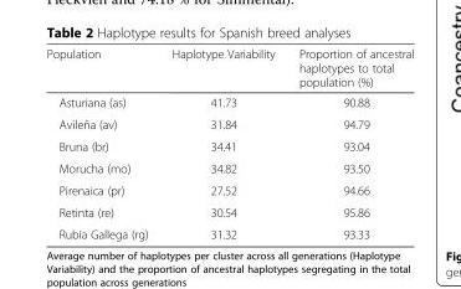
<table><thead><tr><td>Population</td><td>Haplotype Variability</td><td>Proportion of ancestral haplotypes to total population (%)</td></tr></thead><tbody><tr><td>Asturiana (as)</td><td>41.73</td><td>90.88</td></tr><tr><td>Avileña (av)</td><td>31.84</td><td>94.79</td></tr><tr><td>Bruna (br)</td><td>34.41</td><td>93.04</td></tr><tr><td>Morucha (mo)</td><td>34.82</td><td>93.50</td></tr><tr><td>Pirenaica (pr)</td><td>27.52</td><td>94.66</td></tr><tr><td>Retinta (re)</td><td>30.54</td><td>95.86</td></tr><tr><td>Rubia Gallega (rg)</td><td>31.32</td><td>93.33</td></tr></tbody></table>